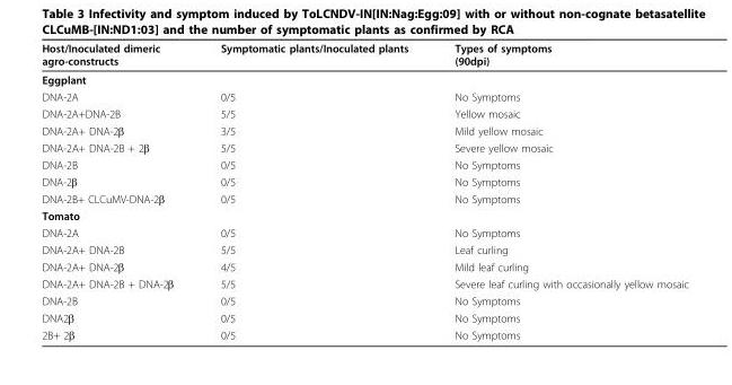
<table><thead><tr><td>Host/Inoculated dimeric agro-constructs</td><td>Symptomatic plants/Inoculated plants</td><td>Types of symptoms (90dpi)</td></tr></thead><tbody><tr><td colspan="3">Eggplant</td></tr><tr><td>DNA-2A</td><td>0/5</td><td>No Symptoms</td></tr><tr><td>DNA-2A+DNA-2B</td><td>5/5</td><td>Yellow mosaic</td></tr><tr><td>DNA-2A+ DNA-2β</td><td>3/5</td><td>Mild yellow mosaic</td></tr><tr><td>DNA-2A+ DNA-2B + 2β</td><td>5/5</td><td>Severe yellow mosaic</td></tr><tr><td>DNA-2B</td><td>0/5</td><td>No Symptoms</td></tr><tr><td>DNA-2β</td><td>0/5</td><td>No Symptoms</td></tr><tr><td>DNA-2B+ CLCuMV-DNA-2β</td><td>0/5</td><td>No Symptoms</td></tr><tr><td colspan="3">Tomato</td></tr><tr><td>DNA-2A</td><td>0/5</td><td>No Symptoms</td></tr><tr><td>DNA-2A+ DNA-2B</td><td>5/5</td><td>Leaf curling</td></tr><tr><td>DNA-2A+ DNA-2β</td><td>4/5</td><td>Mild leaf curling</td></tr><tr><td>DNA-2A+ DNA-2B + DNA-2β</td><td>5/5</td><td>Severe leaf curling with occasionally yellow mosaic</td></tr><tr><td>DNA-2B</td><td>0/5</td><td>No Symptoms</td></tr><tr><td>DNA2β</td><td>0/5</td><td>No Symptoms</td></tr><tr><td>2B+ 2β</td><td>0/5</td><td>No Symptoms</td></tr></tbody></table>